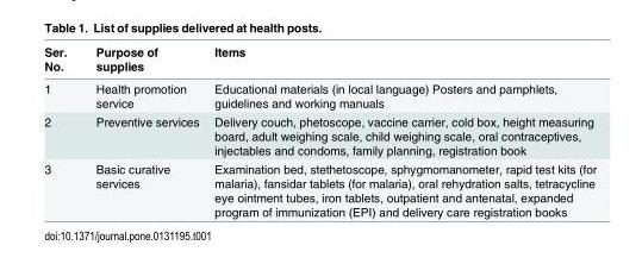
<table><thead><tr><td>Ser. No.</td><td>Purpose of supplies</td><td>Items</td></tr></thead><tbody><tr><td>1</td><td>Health promotion service</td><td>Educational materials (in local language) Posters and pamphlets, guidelines and working manuals</td></tr><tr><td>2</td><td>Preventive services</td><td>Delivery couch, phetoscope, vaccine carrier, cold box, height measuring board, adult weighing scale, child weighing scale, oral contraceptives, injectables and condoms, family planning, registration book</td></tr><tr><td>3</td><td>Basic curative services</td><td>Examination bed, stethetoscope, sphygmomanometer, rapid test kits (for malaria), fansidar tablets (for malaria), oral rehydration salts, tetracycline eye ointment tubes, iron tablets, outpatient and antenatal, expanded program of immunization (EPI) and delivery care registration books</td></tr></tbody></table>